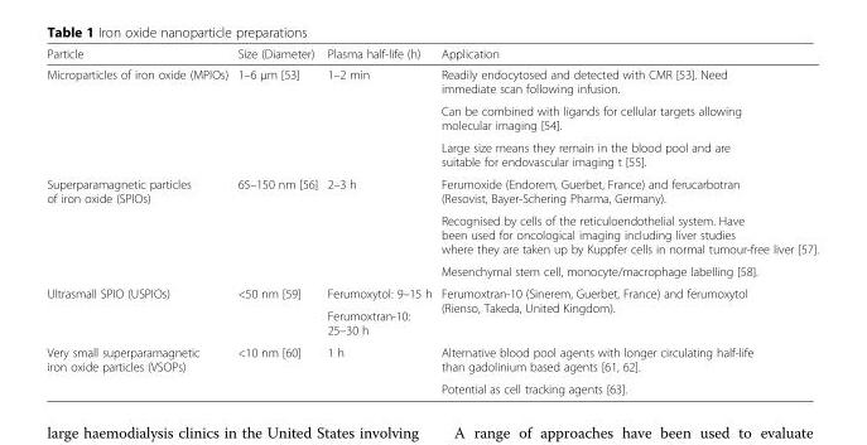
<table><thead><tr><td>Particle</td><td>Size (Diameter)</td><td>Plasma half-life (h)</td><td>Application</td></tr></thead><tbody><tr><td rowspan="3">Microparticles of iron oxide (MPIOs)</td><td rowspan="3">1–6 μm [53]</td><td rowspan="3">1–2 min</td><td>Readily endocytosed and detected with CMR [53]. Need immediate scan following infusion.</td></tr><tr><td>Can be combined with ligands for cellular targets allowing molecular imaging [54].</td></tr><tr><td>Large size means they remain in the blood pool and are suitable for endovascular imaging t [55].</td></tr><tr><td rowspan="3">Superparamagnetic particles of iron oxide (SPIOs)</td><td rowspan="3">65–150 nm [56]</td><td rowspan="3">2–3 h</td><td>Ferumoxide (Endorem, Guerbet, France) and ferucarbotran (Resovist, Bayer-Schering Pharma, Germany).</td></tr><tr><td>Recognised by cells of the reticuloendothelial system. Have been used for oncological imaging including liver studies where they are taken up by Kuppfer cells in normal tumour-free liver [57].</td></tr><tr><td>Mesenchymal stem cell, monocyte/macrophage labelling [58].</td></tr><tr><td rowspan="2">Ultrasmall SPIO (USPIOs)</td><td rowspan="2">&lt;50 nm [59]</td><td>Ferumoxytol: 9–15 h</td><td rowspan="2">Ferumoxtran-10 (Sinerem, Guerbet, France) and ferumoxytol (Rienso, Takeda, United Kingdom).</td></tr><tr><td>Ferumoxtran-10: 25–30 h</td></tr><tr><td rowspan="2">Very small superparamagnetic iron oxide particles (VSOPs)</td><td rowspan="2">&lt;10 nm [60]</td><td rowspan="2">1 h</td><td>Alternative blood pool agents with longer circulating half-life than gadolinium based agents [61, 62].</td></tr><tr><td>Potential as cell tracking agents [63].</td></tr></tbody></table>